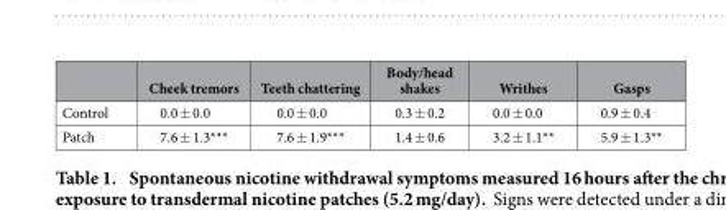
<table><thead><tr><td></td><td>Cheek tremors</td><td>Teeth chattering</td><td>Body/head shakes</td><td>Writhes</td><td>Gasps</td></tr></thead><tbody><tr><td>Control</td><td>0.0 ± 0.0</td><td>0.0 ± 0.0</td><td>0.3 ± 0.2</td><td>0.0 ± 0.0</td><td>0.9 ± 0.4</td></tr><tr><td>Patch</td><td>7.6 ± 1.3***</td><td>7.6 ± 1.9***</td><td>1.4 ± 0.6</td><td>3.2 ± 1.1**</td><td>5.9 ± 1.3**</td></tr></tbody></table>